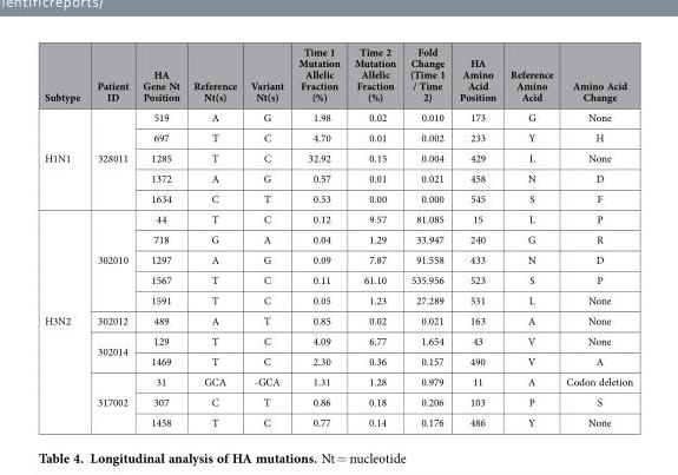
<table><thead><tr><td>Subtype</td><td>Patient ID</td><td>HA Gene Nt Position</td><td>Reference Nt(s)</td><td>Variant Nt(s)</td><td>Time 1 Mutation Allelic Fraction (%)</td><td>Time 2 Mutation Allelic Fraction (%)</td><td>Fold Change (Time 1 / Time 2)</td><td>HA Amino Acid Position</td><td>Reference Amino Acid</td><td>Amino Acid Change</td></tr></thead><tbody><tr><td rowspan="5">H1N1</td><td rowspan="5">328011</td><td>519</td><td>A</td><td>G</td><td>1.98</td><td>0.02</td><td>0.010</td><td>173</td><td>G</td><td>None</td></tr><tr><td>697</td><td>T</td><td>C</td><td>4.70</td><td>0.01</td><td>0.002</td><td>233</td><td>Y</td><td>H</td></tr><tr><td>1285</td><td>T</td><td>C</td><td>32.92</td><td>0.15</td><td>0.004</td><td>429</td><td>L</td><td>None</td></tr><tr><td>1372</td><td>A</td><td>G</td><td>0.57</td><td>0.01</td><td>0.021</td><td>458</td><td>N</td><td>D</td></tr><tr><td>1634</td><td>C</td><td>T</td><td>0.53</td><td>0.00</td><td>0.000</td><td>545</td><td>S</td><td>F</td></tr><tr><td rowspan="11">H3N2</td><td rowspan="5">302010</td><td>44</td><td>T</td><td>C</td><td>0.12</td><td>9.57</td><td>81.085</td><td>15</td><td>L</td><td>P</td></tr><tr><td>718</td><td>G</td><td>A</td><td>0.04</td><td>1.29</td><td>33.947</td><td>240</td><td>G</td><td>R</td></tr><tr><td>1297</td><td>A</td><td>G</td><td>0.09</td><td>7.87</td><td>91.558</td><td>433</td><td>N</td><td>D</td></tr><tr><td>1567</td><td>T</td><td>C</td><td>0.11</td><td>61.10</td><td>535.956</td><td>523</td><td>S</td><td>P</td></tr><tr><td>1591</td><td>T</td><td>C</td><td>0.05</td><td>1.23</td><td>27.289</td><td>531</td><td>L</td><td>None</td></tr><tr><td>302012</td><td>489</td><td>A</td><td>T</td><td>0.85</td><td>0.02</td><td>0.021</td><td>163</td><td>A</td><td>None</td></tr><tr><td rowspan="2">302014</td><td>129</td><td>T</td><td>C</td><td>4.09</td><td>6.77</td><td>1.654</td><td>43</td><td>V</td><td>None</td></tr><tr><td>1469</td><td>T</td><td>C</td><td>2.30</td><td>0.36</td><td>0.157</td><td>490</td><td>V</td><td>A</td></tr><tr><td rowspan="3">317002</td><td>31</td><td>GCA</td><td>-GCA</td><td>1.31</td><td>1.28</td><td>0.979</td><td>11</td><td>A</td><td>Codon deletion</td></tr><tr><td>307</td><td>C</td><td>T</td><td>0.86</td><td>0.18</td><td>0.206</td><td>103</td><td>P</td><td>S</td></tr><tr><td>1458</td><td>T</td><td>C</td><td>0.77</td><td>0.14</td><td>0.176</td><td>486</td><td>Y</td><td>None</td></tr></tbody></table>